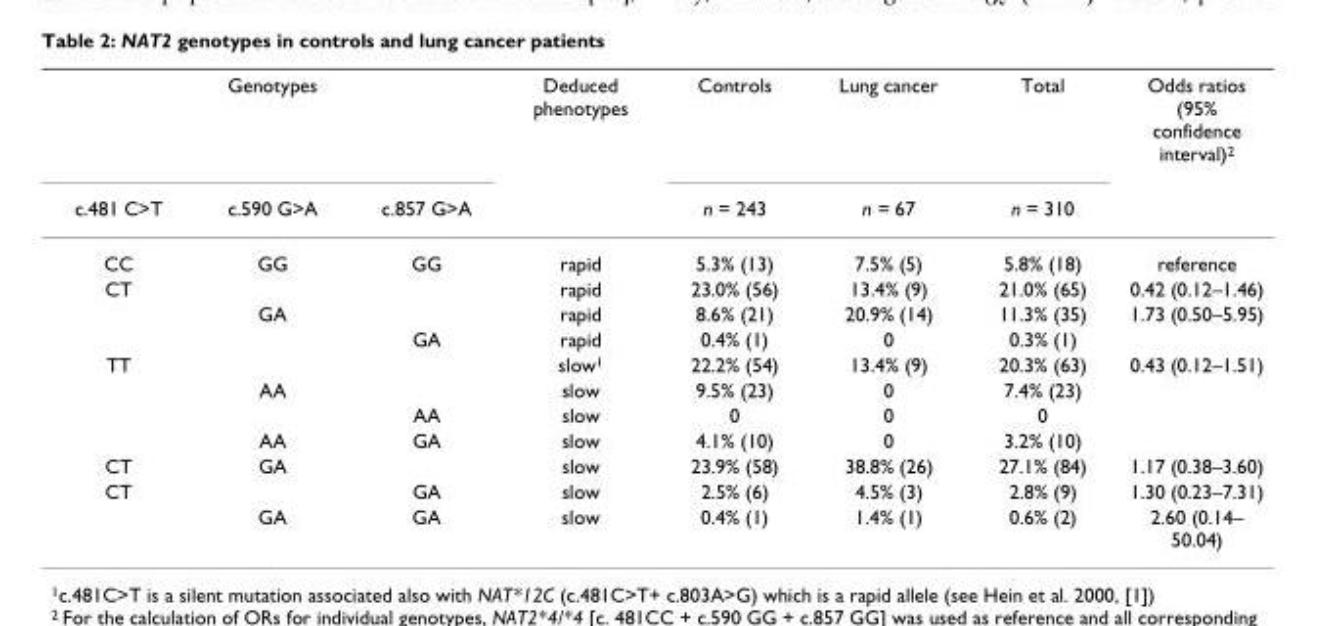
<table><thead><tr><td colspan="3">Genotypes</td><td rowspan="2">Deduced phenotypes</td><td rowspan="2">Controls n = 243</td><td rowspan="2">Lung cancer n = 67</td><td rowspan="2">Total n = 310</td><td rowspan="2">Odds ratios (95% confidence interval)<sup>2</sup></td></tr><tr><td>c.481 C&gt;T</td><td>c.590 G&gt;A</td><td>c.857 G&gt;A</td></tr></thead><tbody><tr><td>CC</td><td>GG</td><td>GG</td><td>rapid</td><td>5.3% (13)</td><td>7.5% (5)</td><td>5.8% (18)</td><td>reference</td></tr><tr><td rowspan="3">CT</td><td></td><td></td><td>rapid</td><td>23.0% (56)</td><td>13.4% (9)</td><td>21.0% (65)</td><td>0.42 (0.12–1.46)</td></tr><tr><td>GA</td><td></td><td>rapid</td><td>8.6% (21)</td><td>20.9% (14)</td><td>11.3% (35)</td><td>1.73 (0.50–5.95)</td></tr><tr><td></td><td>GA</td><td>rapid</td><td>0.4% (1)</td><td>0</td><td>0.3% (1)</td><td></td></tr><tr><td rowspan="4">TT</td><td></td><td></td><td>slow<sup>1</sup></td><td>22.2% (54)</td><td>13.4% (9)</td><td>20.3% (63)</td><td>0.43 (0.12–1.51)</td></tr><tr><td>AA</td><td></td><td>slow</td><td>9.5% (23)</td><td>0</td><td>7.4% (23)</td><td></td></tr><tr><td></td><td>AA</td><td>slow</td><td>0</td><td>0</td><td>0</td><td></td></tr><tr><td>AA</td><td>GA</td><td>slow</td><td>4.1% (10)</td><td>0</td><td>3.2% (10)</td><td></td></tr><tr><td>CT</td><td>GA</td><td></td><td>slow</td><td>23.9% (58)</td><td>38.8% (26)</td><td>27.1% (84)</td><td>1.17 (0.38–3.60)</td></tr><tr><td rowspan="2">CT</td><td></td><td>GA</td><td>slow</td><td>2.5% (6)</td><td>4.5% (3)</td><td>2.8% (9)</td><td>1.30 (0.23–7.31)</td></tr><tr><td>GA</td><td>GA</td><td>slow</td><td>0.4% (1)</td><td>1.4% (1)</td><td>0.6% (2)</td><td>2.60 (0.14– 50.04)</td></tr></tbody></table>